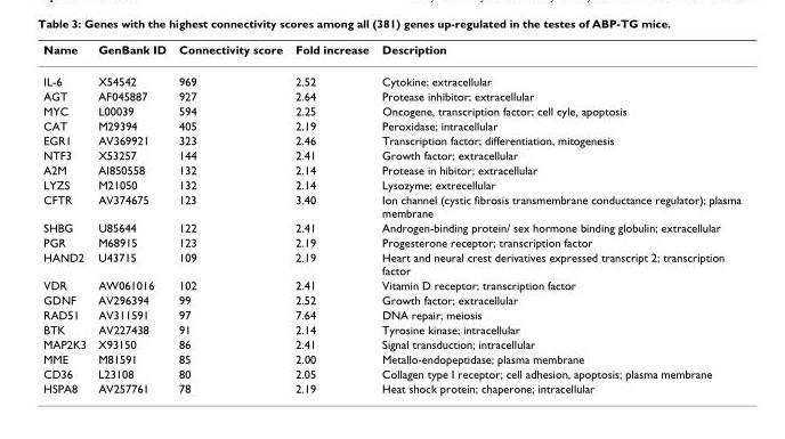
<table><thead><tr><td>Name</td><td>GenBank ID</td><td>Connectivity score</td><td>Fold increase</td><td>Description</td></tr></thead><tbody><tr><td>IL-6</td><td>X54542</td><td>969</td><td>2.52</td><td>Cytokine; extracellular</td></tr><tr><td>AGT</td><td>AF045887</td><td>927</td><td>2.64</td><td>Protease inhibitor; extracellular</td></tr><tr><td>MYC</td><td>L00039</td><td>594</td><td>2.25</td><td>Oncogene, transcription factor; cell cyle, apoptosis</td></tr><tr><td>CAT</td><td>M29394</td><td>405</td><td>2.19</td><td>Peroxidase; intracellular</td></tr><tr><td>EGR1</td><td>AV369921</td><td>323</td><td>2.46</td><td>Transcription factor; differentiation, mitogenesis</td></tr><tr><td>NTF3</td><td>X53257</td><td>144</td><td>2.41</td><td>Growth factor; extracellular</td></tr><tr><td>A2M</td><td>AI850558</td><td>132</td><td>2.14</td><td>Protease in hibitor; extracellular</td></tr><tr><td>LYZS</td><td>M21050</td><td>132</td><td>2.14</td><td>Lysozyme; extrecellular</td></tr><tr><td>CFTR</td><td>AV374675</td><td>123</td><td>3.40</td><td>Ion channel (cystic fibrosis transmembrane conductance regulator); plasma membrane</td></tr><tr><td>SHBG</td><td>U85644</td><td>122</td><td>2.41</td><td>Androgen-binding protein/ sex hormone binding globulin; extracellular</td></tr><tr><td>PGR</td><td>M68915</td><td>123</td><td>2.19</td><td>Progesterone receptor; transcription factor</td></tr><tr><td>HAND2</td><td>U43715</td><td>109</td><td>2.19</td><td>Heart and neural crest derivatives expressed transcript 2; transcription factor</td></tr><tr><td>VDR</td><td>AW061016</td><td>102</td><td>2.41</td><td>Vitamin D receptor; transcription factor</td></tr><tr><td>GDNF</td><td>AV296394</td><td>99</td><td>2.52</td><td>Growth factor; extracellular</td></tr><tr><td>RAD51</td><td>AV311591</td><td>97</td><td>7.64</td><td>DNA repair; meiosis</td></tr><tr><td>BTK</td><td>AV227438</td><td>91</td><td>2.14</td><td>Tyrosine kinase; intracellular</td></tr><tr><td>MAP2K3</td><td>X93150</td><td>86</td><td>2.41</td><td>Signal transduction; intracellular</td></tr><tr><td>MME</td><td>M81591</td><td>85</td><td>2.00</td><td>Metallo-endopeptidase; plasma membrane</td></tr><tr><td>CD36</td><td>L23108</td><td>80</td><td>2.05</td><td>Collagen type I receptor; cell adhesion, apoptosis; plasma membrane</td></tr><tr><td>HSPA8</td><td>AV257761</td><td>78</td><td>2.19</td><td>Heat shock protein; chaperone; intracellular</td></tr></tbody></table>